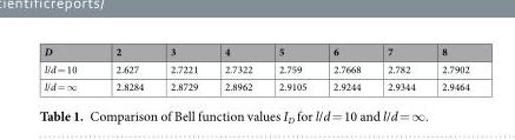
<table><thead><tr><td>D</td><td>2</td><td>3</td><td>4</td><td>5</td><td>6</td><td>7</td><td>8</td></tr></thead><tbody><tr><td>l/d = 10</td><td>2.627</td><td>2.7221</td><td>2.7322</td><td>2.759</td><td>2.7668</td><td>2.782</td><td>2.7902</td></tr><tr><td>l/d = ∞</td><td>2.8284</td><td>2.8729</td><td>2.8962</td><td>2.9105</td><td>2.9244</td><td>2.9344</td><td>2.9464</td></tr></tbody></table>